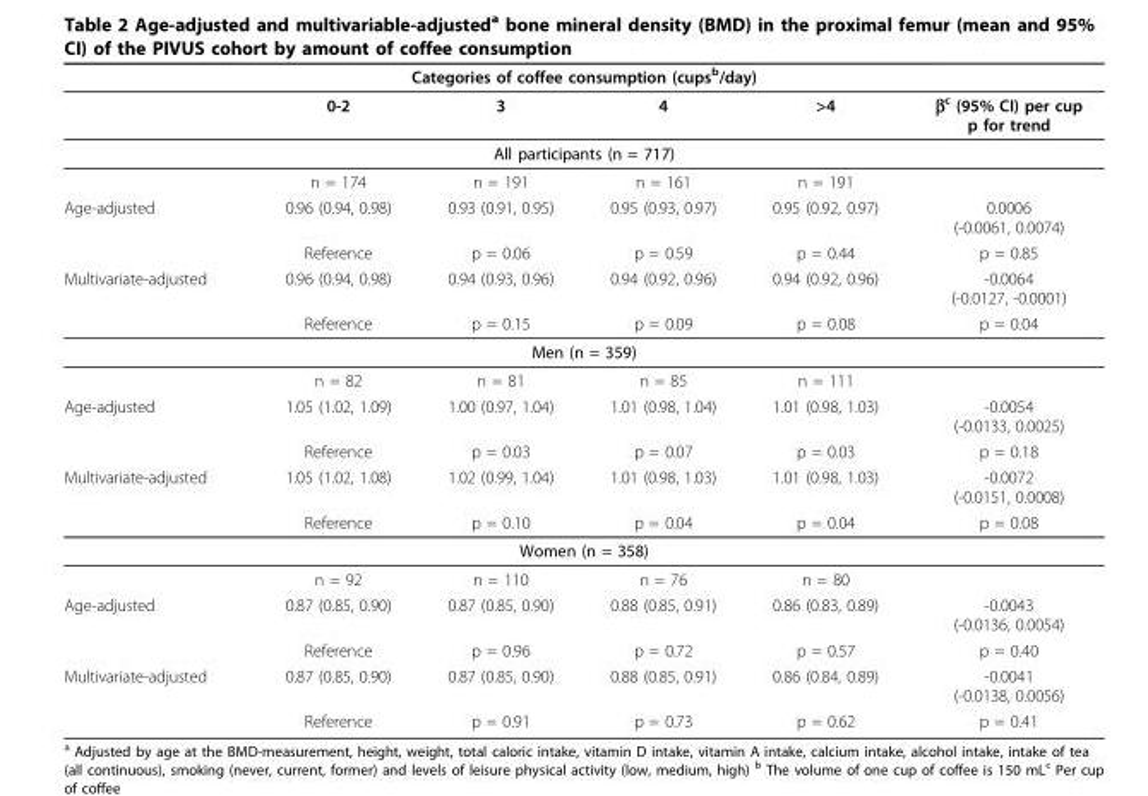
<table><thead><tr><td colspan="6">Categories of coffee consumption (cups<sup>b</sup>/day)</td></tr><tr><td></td><td>0-2</td><td>3</td><td>4</td><td>&gt;4</td><td>β<sup>c</sup> (95% CI) per cup p for trend</td></tr></thead><tbody><tr><td colspan="6">All participants (n = 717)</td></tr><tr><td></td><td>n = 174</td><td>n = 191</td><td>n = 161</td><td>n = 191</td><td></td></tr><tr><td rowspan="2">Age-adjusted</td><td>0.96 (0.94, 0.98)</td><td>0.93 (0.91, 0.95)</td><td>0.95 (0.93, 0.97)</td><td>0.95 (0.92, 0.97)</td><td>0.0006 (-0.0061, 0.0074)</td></tr><tr><td>Reference</td><td>p = 0.06</td><td>p = 0.59</td><td>p = 0.44</td><td>p = 0.85</td></tr><tr><td rowspan="2">Multivariate-adjusted</td><td>0.96 (0.94, 0.98)</td><td>0.94 (0.93, 0.96)</td><td>0.94 (0.92, 0.96)</td><td>0.94 (0.92, 0.96)</td><td>-0.0064 (-0.0127, -0.0001)</td></tr><tr><td>Reference</td><td>p = 0.15</td><td>p = 0.09</td><td>p = 0.08</td><td>p = 0.04</td></tr><tr><td colspan="6">Men (n = 359)</td></tr><tr><td></td><td>n = 82</td><td>n = 81</td><td>n = 85</td><td>n = 111</td><td></td></tr><tr><td rowspan="2">Age-adjusted</td><td>1.05 (1.02, 1.09)</td><td>1.00 (0.97, 1.04)</td><td>1.01 (0.98, 1.04)</td><td>1.01 (0.98, 1.03)</td><td>-0.0054 (-0.0133, 0.0025)</td></tr><tr><td>Reference</td><td>p = 0.03</td><td>p = 0.07</td><td>p = 0.03</td><td>p = 0.18</td></tr><tr><td rowspan="2">Multivariate-adjusted</td><td>1.05 (1.02, 1.08)</td><td>1.02 (0.99, 1.04)</td><td>1.01 (0.98, 1.03)</td><td>1.01 (0.98, 1.03)</td><td>-0.0072 (-0.0151, 0.0008)</td></tr><tr><td>Reference</td><td>p = 0.10</td><td>p = 0.04</td><td>p = 0.04</td><td>p = 0.08</td></tr><tr><td colspan="6">Women (n = 358)</td></tr><tr><td></td><td>n = 92</td><td>n = 110</td><td>n = 76</td><td>n = 80</td><td></td></tr><tr><td rowspan="2">Age-adjusted</td><td>0.87 (0.85, 0.90)</td><td>0.87 (0.85, 0.90)</td><td>0.88 (0.85, 0.91)</td><td>0.86 (0.83, 0.89)</td><td>-0.0043 (-0.0136, 0.0054)</td></tr><tr><td>Reference</td><td>p = 0.96</td><td>p = 0.72</td><td>p = 0.57</td><td>p = 0.40</td></tr><tr><td rowspan="2">Multivariate-adjusted</td><td>0.87 (0.85, 0.90)</td><td>0.87 (0.85, 0.90)</td><td>0.88 (0.85, 0.91)</td><td>0.86 (0.84, 0.89)</td><td>-0.0041 (-0.0138, 0.0056)</td></tr><tr><td>Reference</td><td>p = 0.91</td><td>p = 0.73</td><td>p = 0.62</td><td>p = 0.41</td></tr></tbody></table>